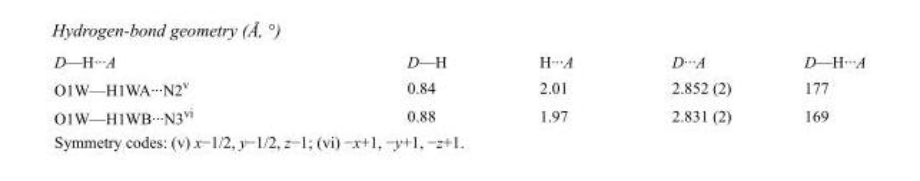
<table><tbody><tr><td>D—H···A</td><td>D—H</td><td>H···A</td><td>D···A</td><td>D—H···A</td></tr><tr><td>O1W—H1WA···N2<sup>v</sup></td><td>0.84</td><td>2.01</td><td>2.852 (2)</td><td>177</td></tr><tr><td>O1W—H1WB···N3<sup>vi</sup></td><td>0.88</td><td>1.97</td><td>2.831 (2)</td><td>169</td></tr></tbody></table>